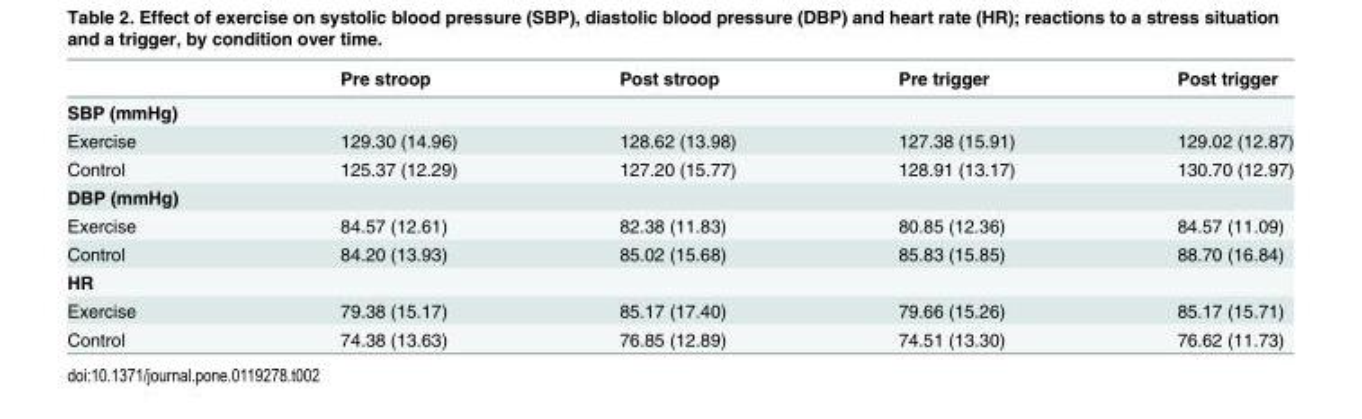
<table><thead><tr><td></td><td>Pre stroop</td><td>Post stroop</td><td>Pre trigger</td><td>Post trigger</td></tr></thead><tbody><tr><td colspan="5">SBP (mmHg)</td></tr><tr><td>Exercise</td><td>129.30 (14.96)</td><td>128.62 (13.98)</td><td>127.38 (15.91)</td><td>129.02 (12.87)</td></tr><tr><td>Control</td><td>125.37 (12.29)</td><td>127.20 (15.77)</td><td>128.91 (13.17)</td><td>130.70 (12.97)</td></tr><tr><td colspan="5">DBP (mmHg)</td></tr><tr><td>Exercise</td><td>84.57 (12.61)</td><td>82.38 (11.83)</td><td>80.85 (12.36)</td><td>84.57 (11.09)</td></tr><tr><td>Control</td><td>84.20 (13.93)</td><td>85.02 (15.68)</td><td>85.83 (15.85)</td><td>88.70 (16.84)</td></tr><tr><td colspan="5">HR</td></tr><tr><td>Exercise</td><td>79.38 (15.17)</td><td>85.17 (17.40)</td><td>79.66 (15.26)</td><td>85.17 (15.71)</td></tr><tr><td>Control</td><td>74.38 (13.63)</td><td>76.85 (12.89)</td><td>74.51 (13.30)</td><td>76.62 (11.73)</td></tr></tbody></table>